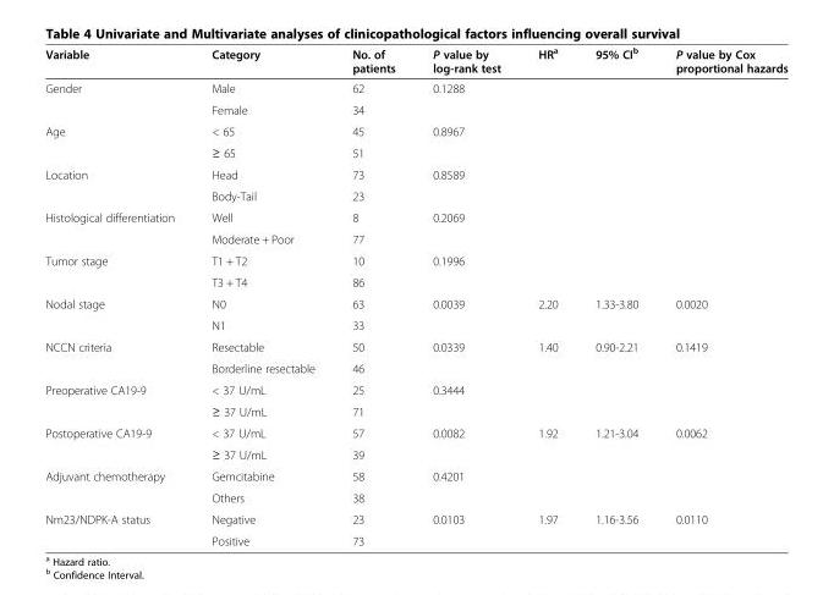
<table><thead><tr><td>Variable</td><td>Category</td><td>No. of patients</td><td>P value by log-rank test</td><td>HR<sup>a</sup></td><td>95% CI<sup>b</sup></td><td>P value by Cox proportional hazards</td></tr></thead><tbody><tr><td rowspan="2">Gender</td><td>Male</td><td>62</td><td>0.1288</td><td></td><td></td><td></td></tr><tr><td>Female</td><td>34</td><td></td><td></td><td></td><td></td></tr><tr><td rowspan="2">Age</td><td>&lt; 65</td><td>45</td><td>0.8967</td><td></td><td></td><td></td></tr><tr><td>≥ 65</td><td>51</td><td></td><td></td><td></td><td></td></tr><tr><td rowspan="2">Location</td><td>Head</td><td>73</td><td>0.8589</td><td></td><td></td><td></td></tr><tr><td>Body-Tail</td><td>23</td><td></td><td></td><td></td><td></td></tr><tr><td rowspan="2">Histological differentiation</td><td>Well</td><td>8</td><td>0.2069</td><td></td><td></td><td></td></tr><tr><td>Moderate + Poor</td><td>77</td><td></td><td></td><td></td><td></td></tr><tr><td rowspan="2">Tumor stage</td><td>T1 + T2</td><td>10</td><td>0.1996</td><td></td><td></td><td></td></tr><tr><td>T3 + T4</td><td>86</td><td></td><td></td><td></td><td></td></tr><tr><td rowspan="2">Nodal stage</td><td>N0</td><td>63</td><td>0.0039</td><td>2.20</td><td>1.33-3.80</td><td>0.0020</td></tr><tr><td>N1</td><td>33</td><td></td><td></td><td></td><td></td></tr><tr><td rowspan="2">NCCN criteria</td><td>Resectable</td><td>50</td><td>0.0339</td><td>1.40</td><td>0.90-2.21</td><td>0.1419</td></tr><tr><td>Borderline resectable</td><td>46</td><td></td><td></td><td></td><td></td></tr><tr><td rowspan="2">Preoperative CA19-9</td><td>&lt; 37 U/mL</td><td>25</td><td>0.3444</td><td></td><td></td><td></td></tr><tr><td>≥ 37 U/mL</td><td>71</td><td></td><td></td><td></td><td></td></tr><tr><td rowspan="2">Postoperative CA19-9</td><td>&lt; 37 U/mL</td><td>57</td><td>0.0082</td><td>1.92</td><td>1.21-3.04</td><td>0.0062</td></tr><tr><td>≥ 37 U/mL</td><td>39</td><td></td><td></td><td></td><td></td></tr><tr><td rowspan="2">Adjuvant chemotherapy</td><td>Gemcitabine</td><td>58</td><td>0.4201</td><td></td><td></td><td></td></tr><tr><td>Others</td><td>38</td><td></td><td></td><td></td><td></td></tr><tr><td rowspan="2">Nm23/NDPK-A status</td><td>Negative</td><td>23</td><td>0.0103</td><td>1.97</td><td>1.16-3.56</td><td>0.0110</td></tr><tr><td>Positive</td><td>73</td><td></td><td></td><td></td><td></td></tr></tbody></table>